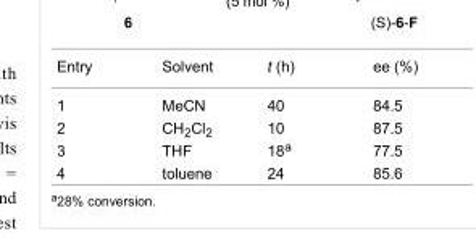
<table><tbody><tr><td>Entry</td><td>Solvent</td><td>t (h)</td><td>ee (%)</td></tr><tr><td>1</td><td>MeCN</td><td>40</td><td>84.5</td></tr><tr><td>2</td><td>CH<sub>2</sub>Cl<sub>2</sub></td><td>10</td><td>87.5</td></tr><tr><td>3</td><td>THF</td><td>18<sup>a</sup></td><td>77.5</td></tr><tr><td>4</td><td>toluene</td><td>24</td><td>85.6</td></tr></tbody></table>